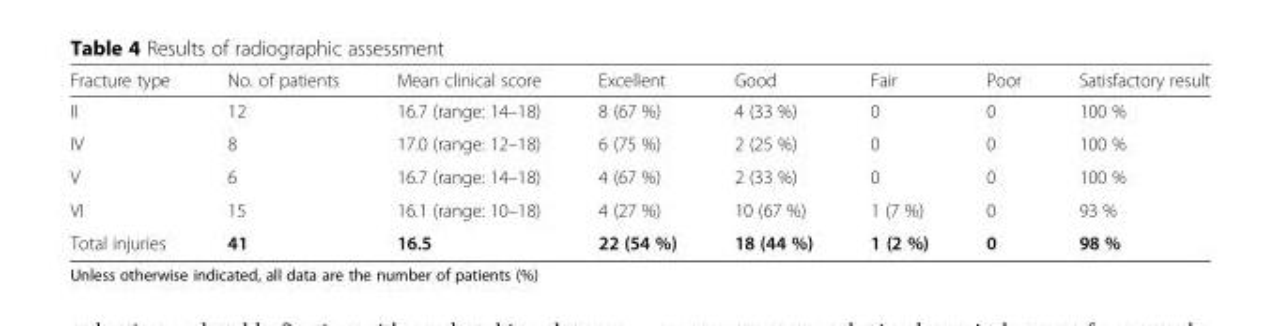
<table><thead><tr><td>Fracture type</td><td>No. of patients</td><td>Mean clinical score</td><td>Excellent</td><td>Good</td><td>Fair</td><td>Poor</td><td>Satisfactory result</td></tr></thead><tbody><tr><td>II</td><td>12</td><td>16.7 (range: 14–18)</td><td>8 (67 %)</td><td>4 (33 %)</td><td>0</td><td>0</td><td>100 %</td></tr><tr><td>IV</td><td>8</td><td>17.0 (range: 12–18)</td><td>6 (75 %)</td><td>2 (25 %)</td><td>0</td><td>0</td><td>100 %</td></tr><tr><td>V</td><td>6</td><td>16.7 (range: 14–18)</td><td>4 (67 %)</td><td>2 (33 %)</td><td>0</td><td>0</td><td>100 %</td></tr><tr><td>VI</td><td>15</td><td>16.1 (range: 10–18)</td><td>4 (27 %)</td><td>10 (67 %)</td><td>1 (7 %)</td><td>0</td><td>93 %</td></tr><tr><td>Total injuries</td><td>41</td><td>16.5</td><td>22 (54 %)</td><td>18 (44 %)</td><td>1 (2 %)</td><td>0</td><td>98 %</td></tr></tbody></table>